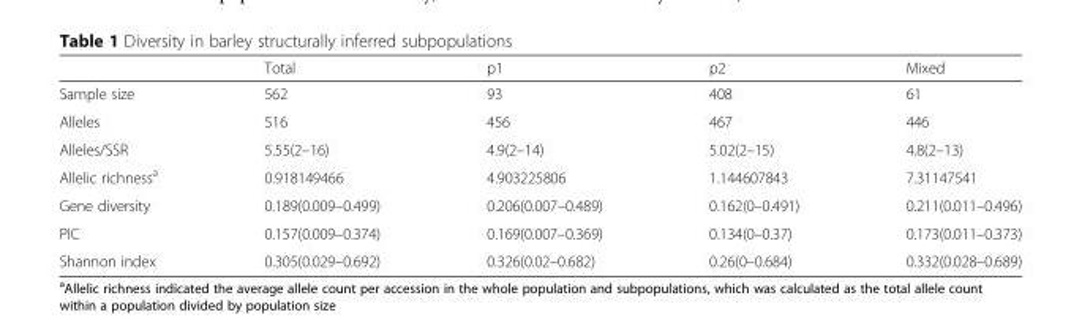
<table><thead><tr><td></td><td>Total</td><td>p1</td><td>p2</td><td>Mixed</td></tr></thead><tbody><tr><td>Sample size</td><td>562</td><td>93</td><td>408</td><td>61</td></tr><tr><td>Alleles</td><td>516</td><td>456</td><td>467</td><td>446</td></tr><tr><td>Alleles/SSR</td><td>5.55(2–16)</td><td>4.9(2–14)</td><td>5.02(2–15)</td><td>4.8(2–13)</td></tr><tr><td>Allelic richness<sup>a</sup></td><td>0.918149466</td><td>4.903225806</td><td>1.144607843</td><td>7.31147541</td></tr><tr><td>Gene diversity</td><td>0.189(0.009–0.499)</td><td>0.206(0.007–0.489)</td><td>0.162(0–0.491)</td><td>0.211(0.011–0.496)</td></tr><tr><td>PIC</td><td>0.157(0.009–0.374)</td><td>0.169(0.007–0.369)</td><td>0.134(0–0.37)</td><td>0.173(0.011–0.373)</td></tr><tr><td>Shannon index</td><td>0.305(0.029–0.692)</td><td>0.326(0.02–0.682)</td><td>0.26(0–0.684)</td><td>0.332(0.028–0.689)</td></tr></tbody></table>